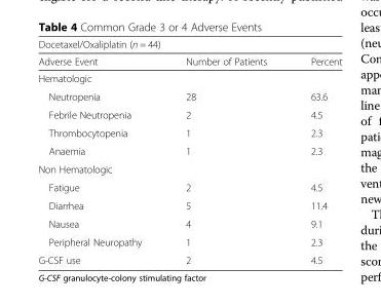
<table><thead><tr><td colspan="3">Docetaxel/Oxaliplatin (n = 44)</td></tr><tr><td>Adverse Event</td><td>Number of Patients</td><td>Percent</td></tr></thead><tbody><tr><td colspan="3">Hematologic</td></tr><tr><td>Neutropenia</td><td>28</td><td>63.6</td></tr><tr><td>Febrile Neutropenia</td><td>2</td><td>4.5</td></tr><tr><td>Thrombocytopenia</td><td>1</td><td>2.3</td></tr><tr><td>Anaemia</td><td>1</td><td>2.3</td></tr><tr><td colspan="3">Non Hematologic</td></tr><tr><td>Fatigue</td><td>2</td><td>4.5</td></tr><tr><td>Diarrhea</td><td>5</td><td>11.4</td></tr><tr><td>Nausea</td><td>4</td><td>9.1</td></tr><tr><td>Peripheral Neuropathy</td><td>1</td><td>2.3</td></tr><tr><td>G-CSF use</td><td>2</td><td>4.5</td></tr></tbody></table>